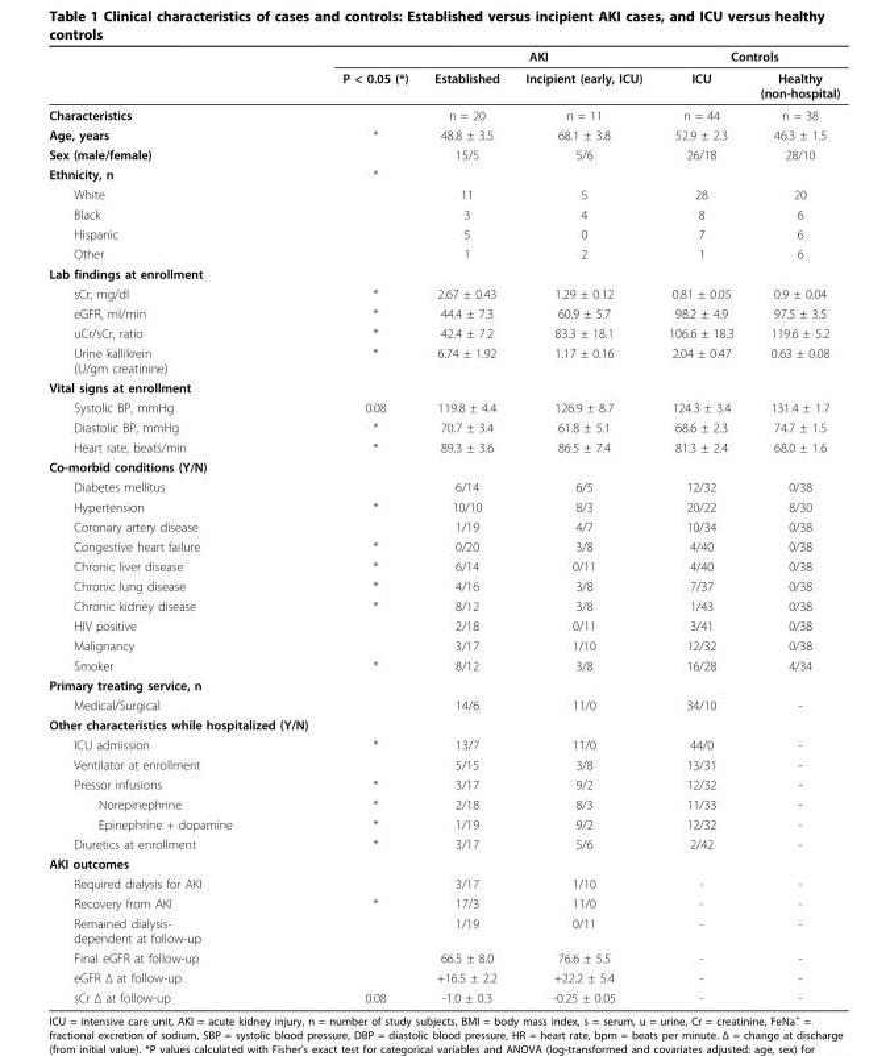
<table><thead><tr><td rowspan="2"></td><td rowspan="2">P &lt; 0.05 (*)</td><td colspan="2">AKI</td><td colspan="2">Controls</td></tr><tr><td>Established</td><td>Incipient (early, ICU)</td><td>ICU</td><td>Healthy (non-hospital)</td></tr></thead><tbody><tr><td>Characteristics</td><td></td><td>n = 20</td><td>n = 11</td><td>n = 44</td><td>n = 38</td></tr><tr><td>Age, years</td><td>*</td><td>48.8 ± 3.5</td><td>68.1 ± 3.8</td><td>52.9 ± 2.3</td><td>46.3 ± 1.5</td></tr><tr><td>Sex (male/female)</td><td></td><td>15/5</td><td>5/6</td><td>26/18</td><td>28/10</td></tr><tr><td>Ethnicity, n</td><td>*</td><td></td><td></td><td></td><td></td></tr><tr><td>White</td><td></td><td>11</td><td>5</td><td>28</td><td>20</td></tr><tr><td>Black</td><td></td><td>3</td><td>4</td><td>8</td><td>6</td></tr><tr><td>Hispanic</td><td></td><td>5</td><td>0</td><td>7</td><td>6</td></tr><tr><td>Other</td><td></td><td>1</td><td>2</td><td>1</td><td>6</td></tr><tr><td colspan="6">Lab findings at enrollment</td></tr><tr><td>sCr, mg/dl</td><td>*</td><td>2.67 ± 0.43</td><td>1.29 ± 0.12</td><td>0.81 ± 0.05</td><td>0.9 ± 0.04</td></tr><tr><td>eGFR, ml/min</td><td>*</td><td>44.4 ± 7.3</td><td>60.9 ± 5.7</td><td>98.2 ± 4.9</td><td>97.5 ± 3.5</td></tr><tr><td>uCr/sCr, ratio</td><td>*</td><td>42.4 ± 7.2</td><td>83.3 ± 18.1</td><td>106.6 ± 18.3</td><td>119.6 ± 5.2</td></tr><tr><td>Urine kallikrein (U/gm creatinine)</td><td>*</td><td>6.74 ± 1.92</td><td>1.17 ± 0.16</td><td>2.04 ± 0.47</td><td>0.63 ± 0.08</td></tr><tr><td colspan="6">Vital signs at enrollment</td></tr><tr><td>Systolic BP, mmHg</td><td>0.08</td><td>119.8 ± 4.4</td><td>126.9 ± 8.7</td><td>124.3 ± 3.4</td><td>131.4 ± 1.7</td></tr><tr><td>Diastolic BP, mmHg</td><td>*</td><td>70.7 ± 3.4</td><td>61.8 ± 5.1</td><td>68.6 ± 2.3</td><td>74.7 ± 1.5</td></tr><tr><td>Heart rate, beats/min</td><td>*</td><td>89.3 ± 3.6</td><td>86.5 ± 7.4</td><td>81.3 ± 2.4</td><td>68.0 ± 1.6</td></tr><tr><td colspan="6">Co-morbid conditions (Y/N)</td></tr><tr><td>Diabetes mellitus</td><td></td><td>6/14</td><td>6/5</td><td>12/32</td><td>0/38</td></tr><tr><td>Hypertension</td><td>*</td><td>10/10</td><td>8/3</td><td>20/22</td><td>8/30</td></tr><tr><td>Coronary artery disease</td><td></td><td>1/19</td><td>4/7</td><td>10/34</td><td>0/38</td></tr><tr><td>Congestive heart failure</td><td>*</td><td>0/20</td><td>3/8</td><td>4/40</td><td>0/38</td></tr><tr><td>Chronic liver disease</td><td>*</td><td>6/14</td><td>0/11</td><td>4/40</td><td>0/38</td></tr><tr><td>Chronic lung disease</td><td>*</td><td>4/16</td><td>3/8</td><td>7/37</td><td>0/38</td></tr><tr><td>Chronic kidney disease</td><td>*</td><td>8/12</td><td>3/8</td><td>1/43</td><td>0/38</td></tr><tr><td>HIV positive</td><td></td><td>2/18</td><td>0/11</td><td>3/41</td><td>0/38</td></tr><tr><td>Malignancy</td><td></td><td>3/17</td><td>1/10</td><td>12/32</td><td>0/38</td></tr><tr><td>Smoker</td><td>*</td><td>8/12</td><td>3/8</td><td>16/28</td><td>4/34</td></tr><tr><td colspan="6">Primary treating service, n</td></tr><tr><td>Medical/Surgical</td><td></td><td>14/6</td><td>11/0</td><td>34/10</td><td>-</td></tr><tr><td colspan="6">Other characteristics while hospitalized (Y/N)</td></tr><tr><td>ICU admission</td><td>*</td><td>13/7</td><td>11/0</td><td>44/0</td><td>-</td></tr><tr><td>Ventilator at enrollment</td><td></td><td>5/15</td><td>3/8</td><td>13/31</td><td>-</td></tr><tr><td>Pressor infusions</td><td>*</td><td>3/17</td><td>9/2</td><td>12/32</td><td>-</td></tr><tr><td>Norepinephrine</td><td>*</td><td>2/18</td><td>8/3</td><td>11/33</td><td>-</td></tr><tr><td>Epinephrine + dopamine</td><td>*</td><td>1/19</td><td>9/2</td><td>12/32</td><td>-</td></tr><tr><td>Diuretics at enrollment</td><td>*</td><td>3/17</td><td>5/6</td><td>2/42</td><td>-</td></tr><tr><td colspan="6">AKI outcomes</td></tr><tr><td>Required dialysis for AKI</td><td></td><td>3/17</td><td>1/10</td><td>-</td><td>-</td></tr><tr><td>Recovery from AKI</td><td>*</td><td>17/3</td><td>11/0</td><td>-</td><td>-</td></tr><tr><td>Remained dialysis- dependent at follow-up</td><td></td><td>1/19</td><td>0/11</td><td>-</td><td>-</td></tr><tr><td>Final eGFR at follow-up</td><td></td><td>66.5 ± 8.0</td><td>76.6 ± 5.5</td><td>-</td><td>-</td></tr><tr><td>eGFR Δ at follow-up</td><td></td><td>+16.5 ± 2.2</td><td>+22.2 ± 5.4</td><td>-</td><td>-</td></tr><tr><td>sCr Δ at follow-up</td><td>0.08</td><td>-1.0 ± 0.3</td><td>-0.25 ± 0.05</td><td>-</td><td>-</td></tr></tbody></table>